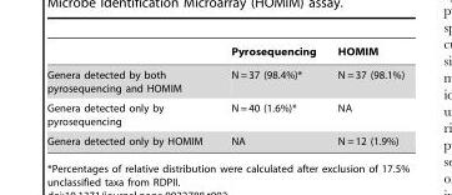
<table><thead><tr><td></td><td>Pyrosequencing</td><td>HOMIM</td></tr></thead><tbody><tr><td>Genera detected by both pyrosequencing and HOMIM</td><td>N = 37 (98.4%)*</td><td>N = 37 (98.1%)</td></tr><tr><td>Genera detected only by pyrosequencing</td><td>N = 40 (1.6%)*</td><td>NA</td></tr><tr><td>Genera detected only by HOMIM</td><td>NA</td><td>N = 12 (1.9%)</td></tr></tbody></table>